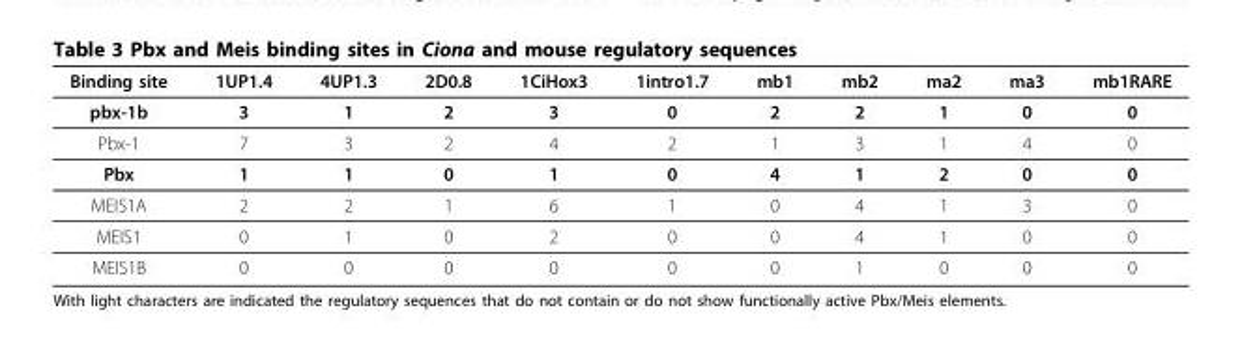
<table><thead><tr><td>Binding site</td><td>1UP1.4</td><td>4UP1.3</td><td>2D0.8</td><td>1CiHox3</td><td>1intro1.7</td><td>mb1</td><td>mb2</td><td>ma2</td><td>ma3</td><td>mb1RARE</td></tr></thead><tbody><tr><td>pbx-1b</td><td>3</td><td>1</td><td>2</td><td>3</td><td>0</td><td>2</td><td>2</td><td>1</td><td>0</td><td>0</td></tr><tr><td>Pbx-1</td><td>7</td><td>3</td><td>2</td><td>4</td><td>2</td><td>1</td><td>3</td><td>1</td><td>4</td><td>0</td></tr><tr><td>Pbx</td><td>1</td><td>1</td><td>0</td><td>1</td><td>0</td><td>4</td><td>1</td><td>2</td><td>0</td><td>0</td></tr><tr><td>MEIS1A</td><td>2</td><td>2</td><td>1</td><td>6</td><td>1</td><td>0</td><td>4</td><td>1</td><td>3</td><td>0</td></tr><tr><td>MEIS1</td><td>0</td><td>1</td><td>0</td><td>2</td><td>0</td><td>0</td><td>4</td><td>1</td><td>0</td><td>0</td></tr><tr><td>MEIS1B</td><td>0</td><td>0</td><td>0</td><td>0</td><td>0</td><td>0</td><td>1</td><td>0</td><td>0</td><td>0</td></tr></tbody></table>